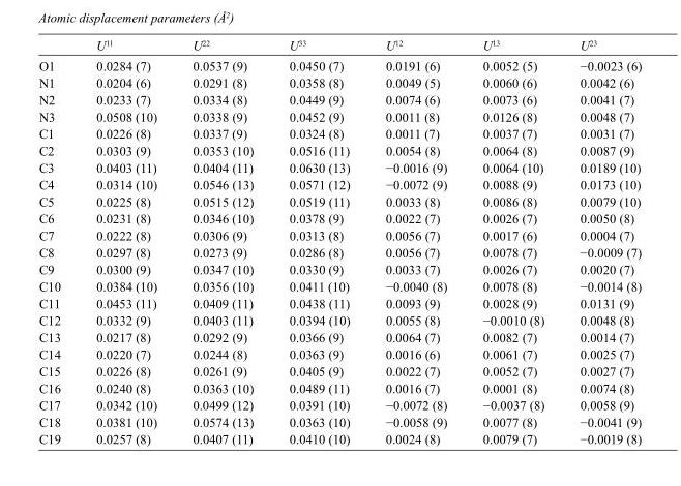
<table><thead><tr><td></td><td>U<sup>11</sup></td><td>U<sup>22</sup></td><td>U<sup>33</sup></td><td>U<sup>12</sup></td><td>U<sup>13</sup></td><td>U<sup>23</sup></td></tr></thead><tbody><tr><td>O1</td><td>0.0284 (7)</td><td>0.0537 (9)</td><td>0.0450 (7)</td><td>0.0191 (6)</td><td>0.0052 (5)</td><td>−0.0023 (6)</td></tr><tr><td>N1</td><td>0.0204 (6)</td><td>0.0291 (8)</td><td>0.0358 (8)</td><td>0.0049 (5)</td><td>0.0060 (6)</td><td>0.0042 (6)</td></tr><tr><td>N2</td><td>0.0233 (7)</td><td>0.0334 (8)</td><td>0.0449 (9)</td><td>0.0074 (6)</td><td>0.0073 (6)</td><td>0.0041 (7)</td></tr><tr><td>N3</td><td>0.0508 (10)</td><td>0.0338 (9)</td><td>0.0452 (9)</td><td>0.0011 (8)</td><td>0.0126 (8)</td><td>0.0048 (7)</td></tr><tr><td>C1</td><td>0.0226 (8)</td><td>0.0337 (9)</td><td>0.0324 (8)</td><td>0.0011 (7)</td><td>0.0037 (7)</td><td>0.0031 (7)</td></tr><tr><td>C2</td><td>0.0303 (9)</td><td>0.0353 (10)</td><td>0.0516 (11)</td><td>0.0054 (8)</td><td>0.0064 (8)</td><td>0.0087 (9)</td></tr><tr><td>C3</td><td>0.0403 (11)</td><td>0.0404 (11)</td><td>0.0630 (13)</td><td>−0.0016 (9)</td><td>0.0064 (10)</td><td>0.0189 (10)</td></tr><tr><td>C4</td><td>0.0314 (10)</td><td>0.0546 (13)</td><td>0.0571 (12)</td><td>−0.0072 (9)</td><td>0.0088 (9)</td><td>0.0173 (10)</td></tr><tr><td>C5</td><td>0.0225 (8)</td><td>0.0515 (12)</td><td>0.0519 (11)</td><td>0.0033 (8)</td><td>0.0086 (8)</td><td>0.0079 (10)</td></tr><tr><td>C6</td><td>0.0231 (8)</td><td>0.0346 (10)</td><td>0.0378 (9)</td><td>0.0022 (7)</td><td>0.0026 (7)</td><td>0.0050 (8)</td></tr><tr><td>C7</td><td>0.0222 (8)</td><td>0.0306 (9)</td><td>0.0313 (8)</td><td>0.0056 (7)</td><td>0.0017 (6)</td><td>0.0004 (7)</td></tr><tr><td>C8</td><td>0.0297 (8)</td><td>0.0273 (9)</td><td>0.0286 (8)</td><td>0.0056 (7)</td><td>0.0078 (7)</td><td>−0.0009 (7)</td></tr><tr><td>C9</td><td>0.0300 (9)</td><td>0.0347 (10)</td><td>0.0330 (9)</td><td>0.0033 (7)</td><td>0.0026 (7)</td><td>0.0020 (7)</td></tr><tr><td>C10</td><td>0.0384 (10)</td><td>0.0356 (10)</td><td>0.0411 (10)</td><td>−0.0040 (8)</td><td>0.0078 (8)</td><td>−0.0014 (8)</td></tr><tr><td>C11</td><td>0.0453 (11)</td><td>0.0409 (11)</td><td>0.0438 (11)</td><td>0.0093 (9)</td><td>0.0028 (9)</td><td>0.0131 (9)</td></tr><tr><td>C12</td><td>0.0332 (9)</td><td>0.0403 (11)</td><td>0.0394 (10)</td><td>0.0055 (8)</td><td>−0.0010 (8)</td><td>0.0048 (8)</td></tr><tr><td>C13</td><td>0.0217 (8)</td><td>0.0292 (9)</td><td>0.0366 (9)</td><td>0.0064 (7)</td><td>0.0082 (7)</td><td>0.0014 (7)</td></tr><tr><td>C14</td><td>0.0220 (7)</td><td>0.0244 (8)</td><td>0.0363 (9)</td><td>0.0016 (6)</td><td>0.0061 (7)</td><td>0.0025 (7)</td></tr><tr><td>C15</td><td>0.0226 (8)</td><td>0.0261 (9)</td><td>0.0405 (9)</td><td>0.0022 (7)</td><td>0.0052 (7)</td><td>0.0027 (7)</td></tr><tr><td>C16</td><td>0.0240 (8)</td><td>0.0363 (10)</td><td>0.0489 (11)</td><td>0.0016 (7)</td><td>0.0001 (8)</td><td>0.0074 (8)</td></tr><tr><td>C17</td><td>0.0342 (10)</td><td>0.0499 (12)</td><td>0.0391 (10)</td><td>−0.0072 (8)</td><td>−0.0037 (8)</td><td>0.0058 (9)</td></tr><tr><td>C18</td><td>0.0381 (10)</td><td>0.0574 (13)</td><td>0.0363 (10)</td><td>−0.0058 (9)</td><td>0.0077 (8)</td><td>−0.0041 (9)</td></tr><tr><td>C19</td><td>0.0257 (8)</td><td>0.0407 (11)</td><td>0.0410 (10)</td><td>0.0024 (8)</td><td>0.0079 (7)</td><td>−0.0019 (8)</td></tr></tbody></table>